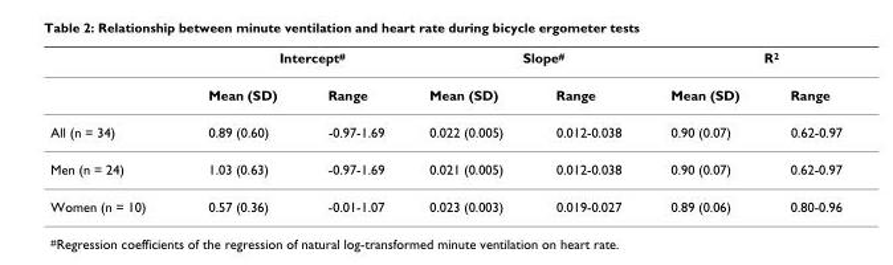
<table><thead><tr><td rowspan="2"></td><td colspan="2">Intercept<sup>#</sup></td><td colspan="2">Slope<sup>#</sup></td><td colspan="2">R<sup>2</sup></td></tr><tr><td>Mean (SD)</td><td>Range</td><td>Mean (SD)</td><td>Range</td><td>Mean (SD)</td><td>Range</td></tr></thead><tbody><tr><td>All (n = 34)</td><td>0.89 (0.60)</td><td>-0.97-1.69</td><td>0.022 (0.005)</td><td>0.012-0.038</td><td>0.90 (0.07)</td><td>0.62-0.97</td></tr><tr><td>Men (n = 24)</td><td>1.03 (0.63)</td><td>-0.97-1.69</td><td>0.021 (0.005)</td><td>0.012-0.038</td><td>0.90 (0.07)</td><td>0.62-0.97</td></tr><tr><td>Women (n = 10)</td><td>0.57 (0.36)</td><td>-0.01-1.07</td><td>0.023 (0.003)</td><td>0.019-0.027</td><td>0.89 (0.06)</td><td>0.80-0.96</td></tr></tbody></table>